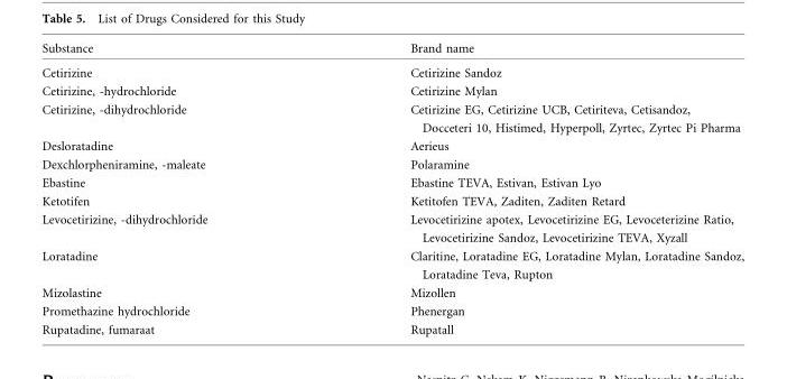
<table><thead><tr><td>Substance</td><td>Brand name</td></tr></thead><tbody><tr><td>Cetirizine</td><td>Cetirizine Sandoz</td></tr><tr><td>Cetirizine, -hydrochloride</td><td>Cetirizine Mylan</td></tr><tr><td>Cetirizine, -dihydrochloride</td><td>Cetirizine EG, Cetirizine UCB, Cetiriteva, Cetisandoz, Docceteri 10, Histimed, Hyperpoll, Zyrtec, Zyrtec Pi Pharma</td></tr><tr><td>Desloratadine</td><td>Aerieus</td></tr><tr><td>Dexchlorpheniramine, -maleate</td><td>Polaramine</td></tr><tr><td>Ebastine</td><td>Ebastine TEVA, Estivan, Estivan Lyo</td></tr><tr><td>Ketotifen</td><td>Ketitofen TEVA, Zaditen, Zaditen Retard</td></tr><tr><td>Levocetirizine, -dihydrochloride</td><td>Levocetirizine apotex, Levocetirizine EG, Levoceterizine Ratio, Levocetirizine Sandoz, Levocetirizine TEVA, Xyzall</td></tr><tr><td>Loratadine</td><td>Claritine, Loratadine EG, Loratadine Mylan, Loratadine Sandoz, Loratadine Teva, Rupton</td></tr><tr><td>Mizolastine</td><td>Mizollen</td></tr><tr><td>Promethazine hydrochloride</td><td>Phenergan</td></tr><tr><td>Rupatadine, fumaraat</td><td>Rupatall</td></tr></tbody></table>